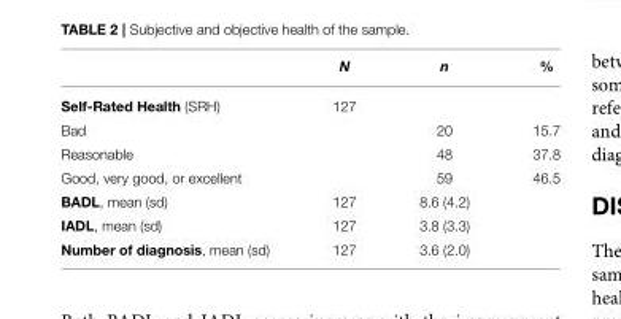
<table><thead><tr><td></td><td>N</td><td>n</td><td>%</td></tr></thead><tbody><tr><td>Self-Rated Health (SRH)</td><td>127</td><td></td><td></td></tr><tr><td>Bad</td><td></td><td>20</td><td>15.7</td></tr><tr><td>Reasonable</td><td></td><td>48</td><td>37.8</td></tr><tr><td>Good, very good, or excellent</td><td></td><td>59</td><td>46.5</td></tr><tr><td>BADL, mean (sd)</td><td>127</td><td>8.6 (4.2)</td><td></td></tr><tr><td>IADL, mean (sd)</td><td>127</td><td>3.8 (3.3)</td><td></td></tr><tr><td>Number of diagnosis, mean (sd)</td><td>127</td><td>3.6 (2.0)</td><td></td></tr></tbody></table>